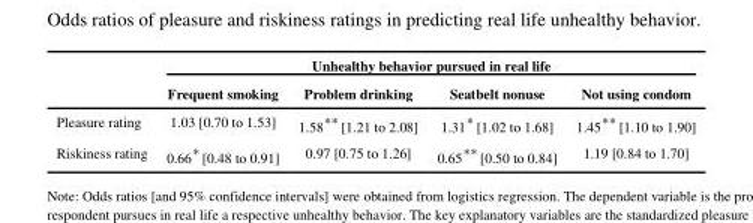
<table><thead><tr><td rowspan="2"></td><td colspan="4">Unhealthy behavior pursued in real life</td></tr><tr><td>Frequent smoking</td><td>Problem drinking</td><td>Seatbelt nonuse</td><td>Not using condom</td></tr></thead><tbody><tr><td>Pleasure rating</td><td>1.03 [0.70 to 1.53]</td><td>1.58** [1.21 to 2.08]</td><td>1.31* [1.02 to 1.68]</td><td>1.45** [1.10 to 1.90]</td></tr><tr><td>Riskiness rating</td><td>0.66* [0.48 to 0.91]</td><td>0.97 [0.75 to 1.26]</td><td>0.65** [0.50 to 0.84]</td><td>1.19 [0.84 to 1.70]</td></tr></tbody></table>